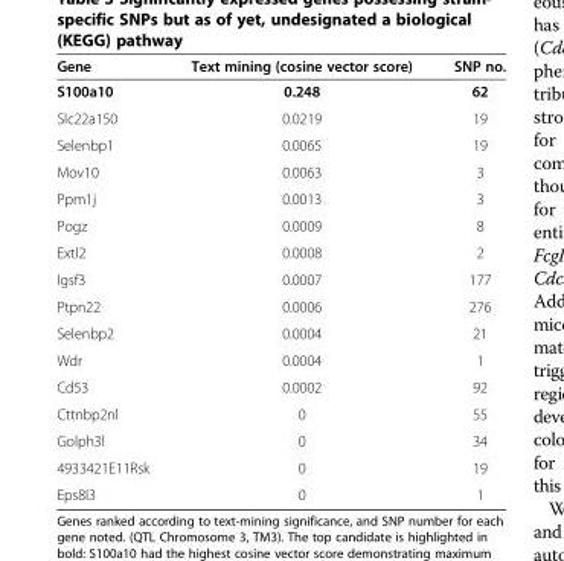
<table><thead><tr><td>Gene</td><td>Text mining (cosine vector score)</td><td>SNP no.</td></tr></thead><tbody><tr><td>S100a10</td><td>0.248</td><td>62</td></tr><tr><td>Slc22a150</td><td>0.0219</td><td>19</td></tr><tr><td>Selenbp1</td><td>0.0065</td><td>19</td></tr><tr><td>Mov10</td><td>0.0063</td><td>3</td></tr><tr><td>Ppm1j</td><td>0.0013</td><td>3</td></tr><tr><td>Pogz</td><td>0.0009</td><td>8</td></tr><tr><td>Extl2</td><td>0.0008</td><td>2</td></tr><tr><td>Igsf3</td><td>0.0007</td><td>177</td></tr><tr><td>Ptpn22</td><td>0.0006</td><td>276</td></tr><tr><td>Selenbp2</td><td>0.0004</td><td>21</td></tr><tr><td>Wdr</td><td>0.0004</td><td>1</td></tr><tr><td>Cd53</td><td>0.0002</td><td>92</td></tr><tr><td>Cttnbp2nl</td><td>0</td><td>55</td></tr><tr><td>Golph3l</td><td>0</td><td>34</td></tr><tr><td>4933421E11Rsk</td><td>0</td><td>19</td></tr><tr><td>Eps8l3</td><td>0</td><td>1</td></tr></tbody></table>